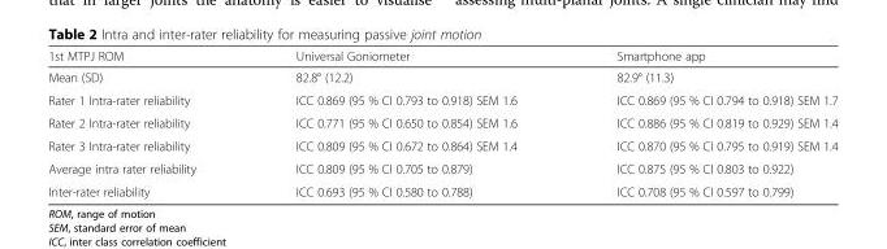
<table><thead><tr><td>1st MTPJ ROM</td><td>Universal Goniometer</td><td>Smartphone app</td></tr></thead><tbody><tr><td>Mean (SD)</td><td>82.8° (12.2)</td><td>82.9° (11.3)</td></tr><tr><td>Rater 1 Intra-rater reliability</td><td>ICC 0.869 (95 % CI 0.793 to 0.918) SEM 1.6</td><td>ICC 0.869 (95 % CI 0.794 to 0.918) SEM 1.7</td></tr><tr><td>Rater 2 Intra-rater reliability</td><td>ICC 0.771 (95 % CI 0.650 to 0.854) SEM 1.6</td><td>ICC 0.886 (95 % CI 0.819 to 0.929) SEM 1.4</td></tr><tr><td>Rater 3 Intra-rater reliability</td><td>ICC 0.809 (95 % CI 0.672 to 0.864) SEM 1.4</td><td>ICC 0.870 (95 % CI 0.795 to 0.919) SEM 1.4</td></tr><tr><td>Average intra rater reliability</td><td>ICC 0.809 (95 % CI 0.705 to 0.879)</td><td>ICC 0.875 (95 % CI 0.803 to 0.922)</td></tr><tr><td>Inter-rater reliability</td><td>ICC 0.693 (95 % CI 0.580 to 0.788)</td><td>ICC 0.708 (95 % CI 0.597 to 0.799)</td></tr></tbody></table>